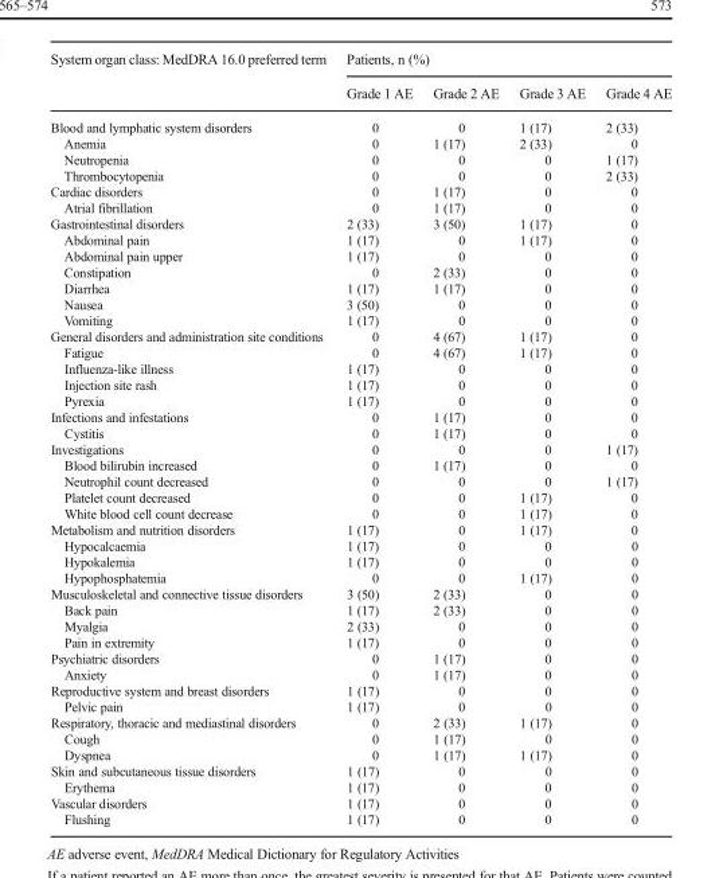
<table><thead><tr><td rowspan="2">System organ class: MedDRA 16.0 preferred term</td><td colspan="4">Patients, n (%)</td></tr><tr><td>Grade 1 AE</td><td>Grade 2 AE</td><td>Grade 3 AE</td><td>Grade 4 AE</td></tr></thead><tbody><tr><td>Blood and lymphatic system disorders</td><td>0</td><td>0</td><td>1 (17)</td><td>2 (33)</td></tr><tr><td>Anemia</td><td>0</td><td>1 (17)</td><td>2 (33)</td><td>0</td></tr><tr><td>Neutropenia</td><td>0</td><td>0</td><td>0</td><td>1 (17)</td></tr><tr><td>Thrombocytopenia</td><td>0</td><td>0</td><td>0</td><td>2 (33)</td></tr><tr><td>Cardiac disorders</td><td>0</td><td>1 (17)</td><td>0</td><td>0</td></tr><tr><td>Atrial fibrillation</td><td>0</td><td>1 (17)</td><td>0</td><td>0</td></tr><tr><td>Gastrointestinal disorders</td><td>2 (33)</td><td>3 (50)</td><td>1 (17)</td><td>0</td></tr><tr><td>Abdominal pain</td><td>1 (17)</td><td>0</td><td>1 (17)</td><td>0</td></tr><tr><td>Abdominal pain upper</td><td>1 (17)</td><td>0</td><td>0</td><td>0</td></tr><tr><td>Constipation</td><td>0</td><td>2 (33)</td><td>0</td><td>0</td></tr><tr><td>Diarrhea</td><td>1 (17)</td><td>1 (17)</td><td>0</td><td>0</td></tr><tr><td>Nausea</td><td>3 (50)</td><td>0</td><td>0</td><td>0</td></tr><tr><td>Vomiting</td><td>1 (17)</td><td>0</td><td>0</td><td>0</td></tr><tr><td>General disorders and administration site conditions</td><td>0</td><td>4 (67)</td><td>1 (17)</td><td>0</td></tr><tr><td>Fatigue</td><td>0</td><td>4 (67)</td><td>1 (17)</td><td>0</td></tr><tr><td>Influenza-like illness</td><td>1 (17)</td><td>0</td><td>0</td><td>0</td></tr><tr><td>Injection site rash</td><td>1 (17)</td><td>0</td><td>0</td><td>0</td></tr><tr><td>Pyrexia</td><td>1 (17)</td><td>0</td><td>0</td><td>0</td></tr><tr><td>Infections and infestations</td><td>0</td><td>1 (17)</td><td>0</td><td>0</td></tr><tr><td>Cystitis</td><td>0</td><td>1 (17)</td><td>0</td><td>0</td></tr><tr><td>Investigations</td><td>0</td><td>0</td><td>0</td><td>1 (17)</td></tr><tr><td>Blood bilirubin increased</td><td>0</td><td>1 (17)</td><td>0</td><td>0</td></tr><tr><td>Neutrophil count decreased</td><td>0</td><td>0</td><td>0</td><td>1 (17)</td></tr><tr><td>Platelet count decreased</td><td>0</td><td>0</td><td>1 (17)</td><td>0</td></tr><tr><td>White blood cell count decrease</td><td>0</td><td>0</td><td>1 (17)</td><td>0</td></tr><tr><td>Metabolism and nutrition disorders</td><td>1 (17)</td><td>0</td><td>1 (17)</td><td>0</td></tr><tr><td>Hypocalcaemia</td><td>1 (17)</td><td>0</td><td>0</td><td>0</td></tr><tr><td>Hypokalemia</td><td>1 (17)</td><td>0</td><td>0</td><td>0</td></tr><tr><td>Hypophosphatemia</td><td>0</td><td>0</td><td>1 (17)</td><td>0</td></tr><tr><td>Musculoskeletal and connective tissue disorders</td><td>3 (50)</td><td>2 (33)</td><td>0</td><td>0</td></tr><tr><td>Back pain</td><td>1 (17)</td><td>2 (33)</td><td>0</td><td>0</td></tr><tr><td>Myalgia</td><td>2 (33)</td><td>0</td><td>0</td><td>0</td></tr><tr><td>Pain in extremity</td><td>1 (17)</td><td>0</td><td>0</td><td>0</td></tr><tr><td>Psychiatric disorders</td><td>0</td><td>1 (17)</td><td>0</td><td>0</td></tr><tr><td>Anxiety</td><td>0</td><td>1 (17)</td><td>0</td><td>0</td></tr><tr><td>Reproductive system and breast disorders</td><td>1 (17)</td><td>0</td><td>0</td><td>0</td></tr><tr><td>Pelvic pain</td><td>1 (17)</td><td>0</td><td>0</td><td>0</td></tr><tr><td>Respiratory, thoracic and mediastinal disorders</td><td>0</td><td>2 (33)</td><td>1 (17)</td><td>0</td></tr><tr><td>Cough</td><td>0</td><td>1 (17)</td><td>0</td><td>0</td></tr><tr><td>Dyspnea</td><td>0</td><td>1 (17)</td><td>1 (17)</td><td>0</td></tr><tr><td>Skin and subcutaneous tissue disorders</td><td>1 (17)</td><td>0</td><td>0</td><td>0</td></tr><tr><td>Erythema</td><td>1 (17)</td><td>0</td><td>0</td><td>0</td></tr><tr><td>Vascular disorders</td><td>1 (17)</td><td>0</td><td>0</td><td>0</td></tr><tr><td>Flushing</td><td>1 (17)</td><td>0</td><td>0</td><td>0</td></tr></tbody></table>